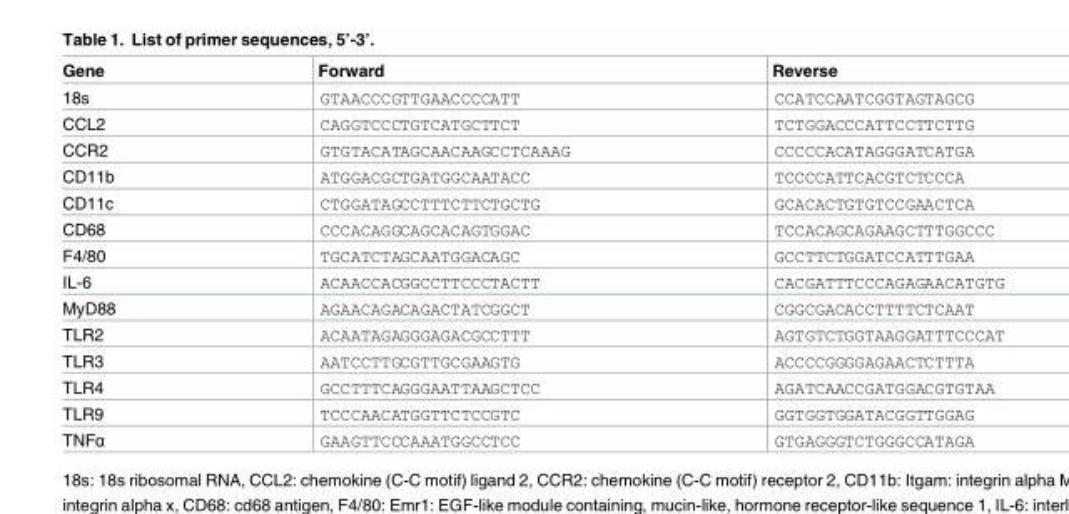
<table><thead><tr><td>Gene</td><td>Forward</td><td>Reverse</td></tr></thead><tbody><tr><td>18s</td><td>GTAACCCGTTGAACCCCATT</td><td>CCATCCAATCGGTAGTAGCG</td></tr><tr><td>CCL2</td><td>CAGGTCCCTGTCATGCTTCT</td><td>TCTGGACCCATTCCTTCTTG</td></tr><tr><td>CCR2</td><td>GTGTACATAGCAACAAGCCTCAAAG</td><td>CCCCCACATAGGGATCATGA</td></tr><tr><td>CD11b</td><td>ATGGACGCTGATGGCAATACC</td><td>TCCCCATTCACGTCTCCCA</td></tr><tr><td>CD11c</td><td>CTGGATAGCCTTTCTTCTGCTG</td><td>GCACACTGTGTCCGAACTCA</td></tr><tr><td>CD68</td><td>CCCACAGGCAGCACAGTGGAC</td><td>TCCACAGCAGAAGCTTTGGCCC</td></tr><tr><td>F4/80</td><td>TGCATCTAGCAATGGACAGC</td><td>GCCTTCTGGATCCATTTGAA</td></tr><tr><td>IL-6</td><td>ACAACCACGGCCTTCCCTACTT</td><td>CACGATTTCCCAGAGAACATGTG</td></tr><tr><td>MyD88</td><td>AGAACAGACAGACTATCGGCT</td><td>CGGCGACACCTTTTCTCAAT</td></tr><tr><td>TLR2</td><td>ACAATAGAGGGAGACGCCTTT</td><td>AGTGTCTGGTAAGGATTTCCCAT</td></tr><tr><td>TLR3</td><td>AATCCTTGCGTTGCGAAGTG</td><td>ACCCCGGGGAGAACTCTTTA</td></tr><tr><td>TLR4</td><td>GCCTTTCAGGGAATTAAGCTCC</td><td>AGATCAACCGATGGACGTGTAA</td></tr><tr><td>TLR9</td><td>TCCCAACATGGTTCTCCGTC</td><td>GGTGGTGGATACGGTTGGAG</td></tr><tr><td>TNFα</td><td>GAAGTTCCCAAATGGCCTCC</td><td>GTGAGGGTCTGGGCCATAGA</td></tr></tbody></table>